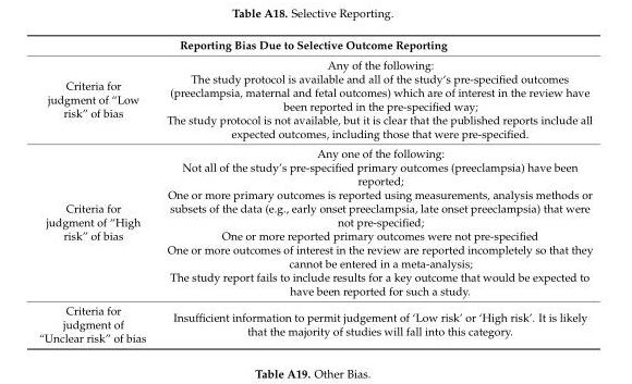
<table><thead><tr><td colspan="2">Reporting Bias Due to Selective Outcome Reporting</td></tr><tr><td>Criteria for judgment of “Low risk” of bias</td><td>Any of the following: The study protocol is available and all of the study‘s pre-specified outcomes (preeclampsia, maternal and fetal outcomes) which are of interest in the review have been reported in the pre-specified way; The study protocol is not available, but it is clear that the published reports include all expected outcomes, including those that were pre-specified.</td></tr></thead><tbody><tr><td>Criteria for judgment of “High risk” of bias</td><td>Any one of the following: Not all of the study’s pre-specified primary outcomes (preeclampsia) have been reported; One or more primary outcomes is reported using measurements, analysis methods or subsets of the data (e.g., early onset preeclampsia, late onset preeclampsia) that were not pre-specified; One or more reported primary outcomes were not pre-specified One or more outcomes of interest in the review are reported incompletely so that they cannot be entered in a meta-analysis; The study report fails to include results for a key outcome that would be expected to have been reported for such a study.</td></tr><tr><td>Criteria for judgment of “Unclear risk” of bias</td><td>Insufficient information to permit judgement of ‘Low risk’ or ‘High risk’. It is likely that the majority of studies will fall into this category.</td></tr></tbody></table>